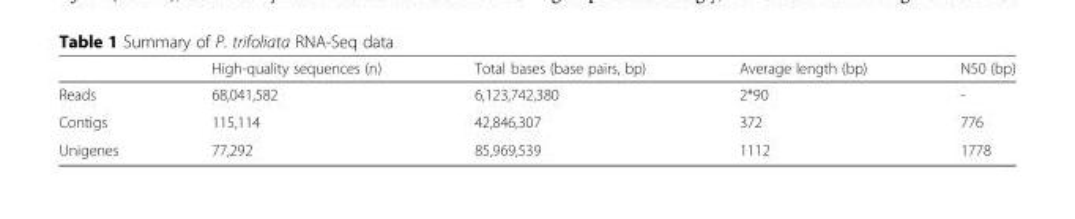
<table><thead><tr><td></td><td>High-quality sequences (n)</td><td>Total bases (base pairs, bp)</td><td>Average length (bp)</td><td>N50 (bp)</td></tr></thead><tbody><tr><td>Reads</td><td>68,041,582</td><td>6,123,742,380</td><td>2*90</td><td>-</td></tr><tr><td>Contigs</td><td>115,114</td><td>42,846,307</td><td>372</td><td>776</td></tr><tr><td>Unigenes</td><td>77,292</td><td>85,969,539</td><td>1112</td><td>1778</td></tr></tbody></table>